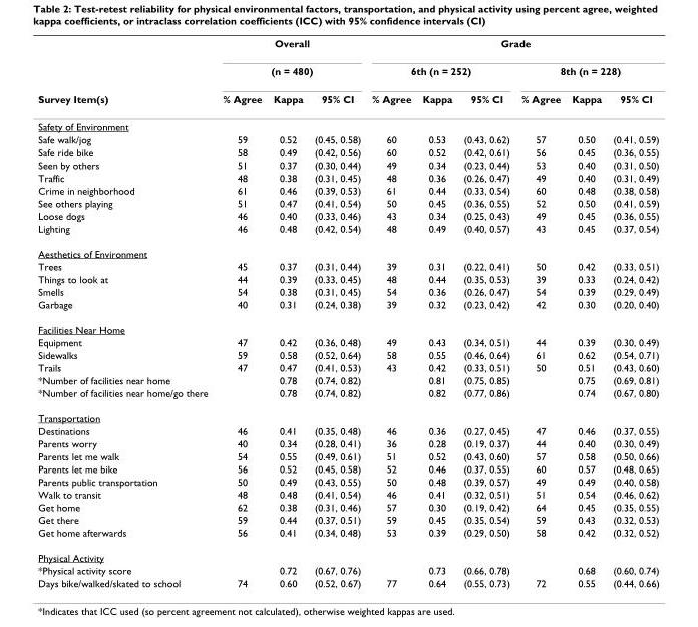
<table><thead><tr><td rowspan="3">Survey Item(s)</td><td rowspan="2" colspan="3">Overall (n = 480)</td><td colspan="6">Grade</td></tr><tr><td colspan="3">6th (n = 252)</td><td colspan="3">8th (n = 228)</td></tr><tr><td>% Agree</td><td>Kappa</td><td>95% CI</td><td>% Agree</td><td>Kappa</td><td>95% CI</td><td>% Agree</td><td>Kappa</td><td>95% CI</td></tr></thead><tbody><tr><td colspan="10">Safety of Environment</td></tr><tr><td>Safe walk/jog</td><td>59</td><td>0.52</td><td>(0.45, 0.58)</td><td>60</td><td>0.53</td><td>(0.43, 0.62)</td><td>57</td><td>0.50</td><td>(0.41, 0.59)</td></tr><tr><td>Safe ride bike</td><td>58</td><td>0.49</td><td>(0.42, 0.56)</td><td>60</td><td>0.52</td><td>(0.42, 0.61)</td><td>56</td><td>0.45</td><td>(0.36, 0.55)</td></tr><tr><td>Seen by others</td><td>51</td><td>0.37</td><td>(0.30, 0.44)</td><td>49</td><td>0.34</td><td>(0.23, 0.44)</td><td>53</td><td>0.40</td><td>(0.31, 0.50)</td></tr><tr><td>Traffic</td><td>48</td><td>0.38</td><td>(0.31, 0.45)</td><td>48</td><td>0.36</td><td>(0.26, 0.47)</td><td>49</td><td>0.40</td><td>(0.31, 0.49)</td></tr><tr><td>Crime in neighborhood</td><td>61</td><td>0.46</td><td>(0.39, 0.53)</td><td>61</td><td>0.44</td><td>(0.33, 0.54)</td><td>60</td><td>0.48</td><td>(0.38, 0.58)</td></tr><tr><td>See others playing</td><td>51</td><td>0.47</td><td>(0.41, 0.54)</td><td>50</td><td>0.45</td><td>(0.36, 0.55)</td><td>52</td><td>0.50</td><td>(0.41, 0.59)</td></tr><tr><td>Loose dogs</td><td>46</td><td>0.40</td><td>(0.33, 0.46)</td><td>43</td><td>0.34</td><td>(0.25, 0.43)</td><td>49</td><td>0.45</td><td>(0.36, 0.55)</td></tr><tr><td>Lighting</td><td>46</td><td>0.48</td><td>(0.42, 0.54)</td><td>48</td><td>0.49</td><td>(0.40, 0.57)</td><td>43</td><td>0.45</td><td>(0.37, 0.54)</td></tr><tr><td colspan="10">Aesthetics of Environment</td></tr><tr><td>Trees</td><td>45</td><td>0.37</td><td>(0.31, 0.44)</td><td>39</td><td>0.31</td><td>(0.22, 0.41)</td><td>50</td><td>0.42</td><td>(0.33, 0.51)</td></tr><tr><td>Things to look at</td><td>44</td><td>0.39</td><td>(0.33, 0.45)</td><td>48</td><td>0.44</td><td>(0.35, 0.53)</td><td>39</td><td>0.33</td><td>(0.24, 0.42)</td></tr><tr><td>Smells</td><td>54</td><td>0.38</td><td>(0.31, 0.45)</td><td>54</td><td>0.36</td><td>(0.26, 0.47)</td><td>54</td><td>0.39</td><td>(0.29, 0.49)</td></tr><tr><td>Garbage</td><td>40</td><td>0.31</td><td>(0.24, 0.38)</td><td>39</td><td>0.32</td><td>(0.23, 0.42)</td><td>42</td><td>0.30</td><td>(0.20, 0.40)</td></tr><tr><td colspan="10">Facilities Near Home</td></tr><tr><td>Equipment</td><td>47</td><td>0.42</td><td>(0.36, 0.48)</td><td>49</td><td>0.43</td><td>(0.34, 0.51)</td><td>44</td><td>0.39</td><td>(0.30, 0.49)</td></tr><tr><td>Sidewalks</td><td>59</td><td>0.58</td><td>(0.52, 0.64)</td><td>58</td><td>0.55</td><td>(0.46, 0.64)</td><td>61</td><td>0.62</td><td>(0.54, 0.71)</td></tr><tr><td>Trails</td><td>47</td><td>0.47</td><td>(0.41, 0.53)</td><td>43</td><td>0.42</td><td>(0.33, 0.51)</td><td>50</td><td>0.51</td><td>(0.43, 0.60)</td></tr><tr><td>*Number of facilities near home</td><td></td><td>0.78</td><td>(0.74, 0.82)</td><td></td><td>0.81</td><td>(0.75, 0.85)</td><td></td><td>0.75</td><td>(0.69, 0.81)</td></tr><tr><td>*Number of facilities near home/go there</td><td></td><td>0.78</td><td>(0.74, 0.82)</td><td></td><td>0.82</td><td>(0.77, 0.86)</td><td></td><td>0.74</td><td>(0.67, 0.80)</td></tr><tr><td colspan="10">Transportation</td></tr><tr><td>Destinations</td><td>46</td><td>0.41</td><td>(0.35, 0.48)</td><td>46</td><td>0.36</td><td>(0.27, 0.45)</td><td>47</td><td>0.46</td><td>(0.37, 0.55)</td></tr><tr><td>Parents worry</td><td>40</td><td>0.34</td><td>(0.28, 0.41)</td><td>36</td><td>0.28</td><td>(0.19, 0.37)</td><td>44</td><td>0.40</td><td>(0.30, 0.49)</td></tr><tr><td>Parents let me walk</td><td>54</td><td>0.55</td><td>(0.49, 0.61)</td><td>51</td><td>0.52</td><td>(0.43, 0.60)</td><td>57</td><td>0.58</td><td>(0.50, 0.66)</td></tr><tr><td>Parents let me bike</td><td>56</td><td>0.52</td><td>(0.45, 0.58)</td><td>52</td><td>0.46</td><td>(0.37, 0.55)</td><td>60</td><td>0.57</td><td>(0.48, 0.65)</td></tr><tr><td>Parents public transportation</td><td>50</td><td>0.49</td><td>(0.43, 0.55)</td><td>50</td><td>0.48</td><td>(0.39, 0.57)</td><td>49</td><td>0.49</td><td>(0.40, 0.58)</td></tr><tr><td>Walk to transit</td><td>48</td><td>0.48</td><td>(0.41, 0.54)</td><td>46</td><td>0.41</td><td>(0.32, 0.51)</td><td>51</td><td>0.54</td><td>(0.46, 0.62)</td></tr><tr><td>Get home</td><td>62</td><td>0.38</td><td>(0.31, 0.46)</td><td>57</td><td>0.30</td><td>(0.19, 0.42)</td><td>64</td><td>0.45</td><td>(0.35, 0.55)</td></tr><tr><td>Get there</td><td>59</td><td>0.44</td><td>(0.37, 0.51)</td><td>59</td><td>0.45</td><td>(0.35, 0.54)</td><td>59</td><td>0.43</td><td>(0.32, 0.53)</td></tr><tr><td>Get home afterwards</td><td>56</td><td>0.41</td><td>(0.34, 0.48)</td><td>53</td><td>0.39</td><td>(0.29, 0.50)</td><td>58</td><td>0.42</td><td>(0.32, 0.52)</td></tr><tr><td colspan="10">Physical Activity</td></tr><tr><td>*Physical activity score</td><td></td><td>0.72</td><td>(0.67, 0.76)</td><td></td><td>0.73</td><td>(0.66, 0.78)</td><td></td><td>0.68</td><td>(0.60, 0.74)</td></tr><tr><td>Days bike/walked/skated to school</td><td>74</td><td>0.60</td><td>(0.52, 0.67)</td><td>77</td><td>0.64</td><td>(0.55, 0.73)</td><td>72</td><td>0.55</td><td>(0.44, 0.66)</td></tr></tbody></table>